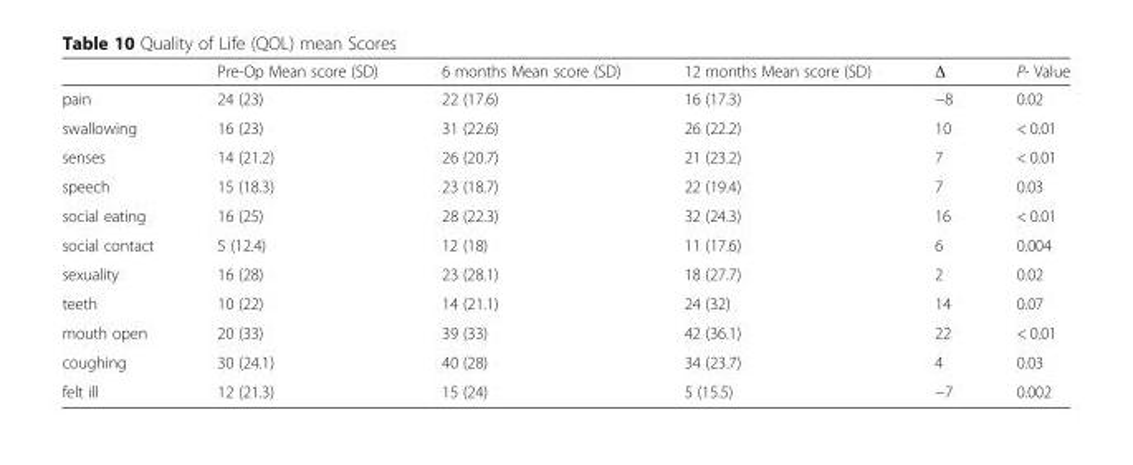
<table><thead><tr><td></td><td>Pre-Op Mean score (SD)</td><td>6 months Mean score (SD)</td><td>12 months Mean score (SD)</td><td>Δ</td><td>P- Value</td></tr></thead><tbody><tr><td>pain</td><td>24 (23)</td><td>22 (17.6)</td><td>16 (17.3)</td><td>−8</td><td>0.02</td></tr><tr><td>swallowing</td><td>16 (23)</td><td>31 (22.6)</td><td>26 (22.2)</td><td>10</td><td>&lt; 0.01</td></tr><tr><td>senses</td><td>14 (21.2)</td><td>26 (20.7)</td><td>21 (23.2)</td><td>7</td><td>&lt; 0.01</td></tr><tr><td>speech</td><td>15 (18.3)</td><td>23 (18.7)</td><td>22 (19.4)</td><td>7</td><td>0.03</td></tr><tr><td>social eating</td><td>16 (25)</td><td>28 (22.3)</td><td>32 (24.3)</td><td>16</td><td>&lt; 0.01</td></tr><tr><td>social contact</td><td>5 (12.4)</td><td>12 (18)</td><td>11 (17.6)</td><td>6</td><td>0.004</td></tr><tr><td>sexuality</td><td>16 (28)</td><td>23 (28.1)</td><td>18 (27.7)</td><td>2</td><td>0.02</td></tr><tr><td>teeth</td><td>10 (22)</td><td>14 (21.1)</td><td>24 (32)</td><td>14</td><td>0.07</td></tr><tr><td>mouth open</td><td>20 (33)</td><td>39 (33)</td><td>42 (36.1)</td><td>22</td><td>&lt; 0.01</td></tr><tr><td>coughing</td><td>30 (24.1)</td><td>40 (28)</td><td>34 (23.7)</td><td>4</td><td>0.03</td></tr><tr><td>felt ill</td><td>12 (21.3)</td><td>15 (24)</td><td>5 (15.5)</td><td>−7</td><td>0.002</td></tr></tbody></table>